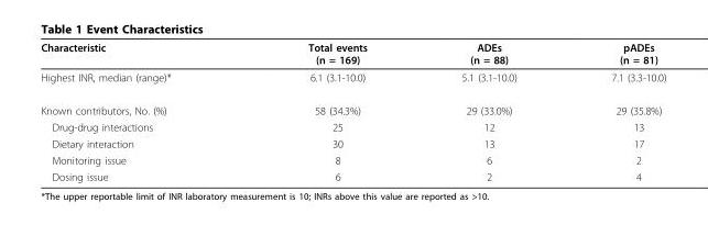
<table><thead><tr><td>Characteristic</td><td>Total events (n = 169)</td><td>ADEs (n = 88)</td><td>pADEs (n = 81)</td></tr></thead><tbody><tr><td>Highest INR, median (range)*</td><td>6.1 (3.1-10.0)</td><td>5.1 (3.1-10.0)</td><td>7.1 (3.3-10.0)</td></tr><tr><td>Known contributors, No. (%)</td><td>58 (34.3%)</td><td>29 (33.0%)</td><td>29 (35.8%)</td></tr><tr><td>Drug-drug interactions</td><td>25</td><td>12</td><td>13</td></tr><tr><td>Dietary interaction</td><td>30</td><td>13</td><td>17</td></tr><tr><td>Monitoring issue</td><td>8</td><td>6</td><td>2</td></tr><tr><td>Dosing issue</td><td>6</td><td>2</td><td>4</td></tr></tbody></table>